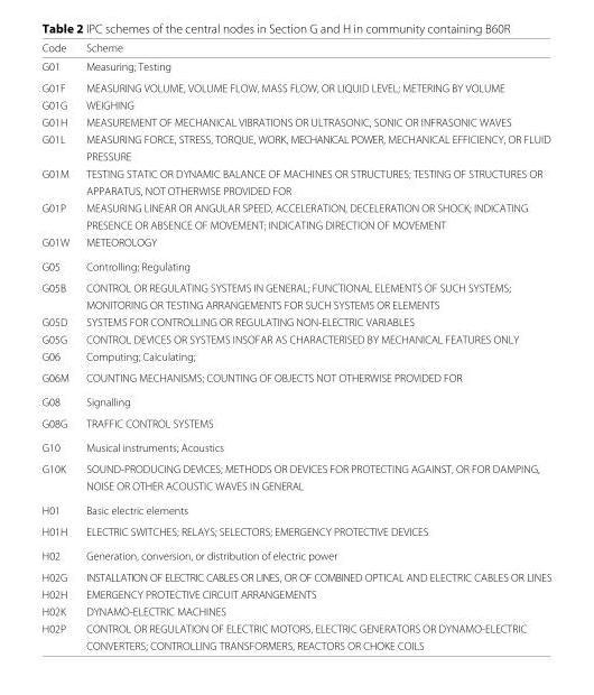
<table><thead><tr><td>Code</td><td>Scheme</td></tr></thead><tbody><tr><td>G01</td><td>Measuring; Testing</td></tr><tr><td>G01F</td><td>MEASURING VOLUME, VOLUME FLOW, MASS FLOW, OR LIQUID LEVEL; METERING BY VOLUME</td></tr><tr><td>G01G</td><td>WEIGHING</td></tr><tr><td>G01H</td><td>MEASUREMENT OF MECHANICAL VIBRATIONS OR ULTRASONIC, SONIC OR INFRASONIC WAVES</td></tr><tr><td rowspan="2">G01L</td><td>MEASURING FORCE, STRESS, TORQUE, WORK, MECHANICAL POWER, MECHANICAL EFFICIENCY, OR FLUID</td></tr><tr><td>PRESSURE</td></tr><tr><td rowspan="2">G01M</td><td>TESTING STATIC OR DYNAMIC BALANCE OF MACHINES OR STRUCTURES; TESTING OF STRUCTURES OR</td></tr><tr><td>APPARATUS, NOT OTHERWISE PROVIDED FOR</td></tr><tr><td rowspan="2">G01P</td><td>MEASURING LINEAR OR ANGULAR SPEED, ACCELERATION, DECELERATION OR SHOCK; INDICATING</td></tr><tr><td>PRESENCE OR ABSENCE OF MOVEMENT; INDICATING DIRECTION OF MOVEMENT</td></tr><tr><td>G01W</td><td>METEOROLOGY</td></tr><tr><td>G05</td><td>Controlling; Regulating</td></tr><tr><td rowspan="2">G05B</td><td>CONTROL OR REGULATING SYSTEMS IN GENERAL; FUNCTIONAL ELEMENTS OF SUCH SYSTEMS;</td></tr><tr><td>MONITORING OR TESTING ARRANGEMENTS FOR SUCH SYSTEMS OR ELEMENTS</td></tr><tr><td>G05D</td><td>SYSTEMS FOR CONTROLLING OR REGULATING NON-ELECTRIC VARIABLES</td></tr><tr><td>G05G</td><td>CONTROL DEVICES OR SYSTEMS INSOFAR AS CHARACTERISED BY MECHANICAL FEATURES ONLY</td></tr><tr><td>G06</td><td>Computing; Calculating;</td></tr><tr><td>G06M</td><td>COUNTING MECHANISMS; COUNTING OF OBJECTS NOT OTHERWISE PROVIDED FOR</td></tr><tr><td>G08</td><td>Signalling</td></tr><tr><td>G08G</td><td>TRAFFIC CONTROL SYSTEMS</td></tr><tr><td>G10</td><td>Musical instruments; Acoustics</td></tr><tr><td rowspan="2">G10K</td><td>SOUND-PRODUCING DEVICES; METHODS OR DEVICES FOR PROTECTING AGAINST, OR FOR DAMPING,</td></tr><tr><td>NOISE OR OTHER ACOUSTIC WAVES IN GENERAL</td></tr><tr><td>H01</td><td>Basic electric elements</td></tr><tr><td>H01H</td><td>ELECTRIC SWITCHES; RELAYS; SELECTORS; EMERGENCY PROTECTIVE DEVICES</td></tr><tr><td>H02</td><td>Generation, conversion, or distribution of electric power</td></tr><tr><td>H02G</td><td>INSTALLATION OF ELECTRIC CABLES OR LINES, OR OF COMBINED OPTICAL AND ELECTRIC CABLES OR LINES</td></tr><tr><td>H02H</td><td>EMERGENCY PROTECTIVE CIRCUIT ARRANGEMENTS</td></tr><tr><td>H02K</td><td>DYNAMO-ELECTRIC MACHINES</td></tr><tr><td rowspan="2">H02P</td><td>CONTROL OR REGULATION OF ELECTRIC MOTORS, ELECTRIC GENERATORS OR DYNAMO-ELECTRIC</td></tr><tr><td>CONVERTERS; CONTROLLING TRANSFORMERS, REACTORS OR CHOKE COILS</td></tr></tbody></table>